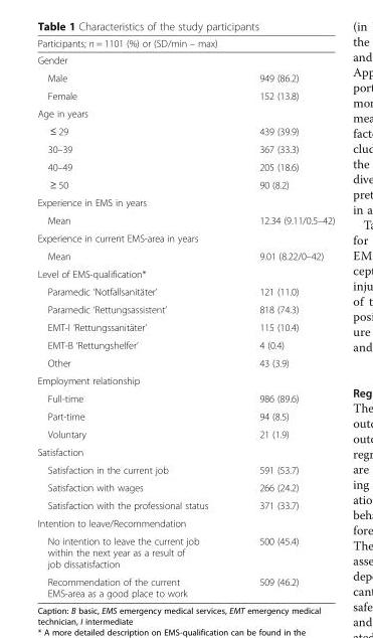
<table><thead><tr><td rowspan="2" colspan="2">Participants; n = 1101 (%) or (SD/min – max) Gender</td></tr><tr></tr><tr><td>Male</td><td>949 (86.2)</td></tr></thead><tbody><tr><td>Female</td><td>152 (13.8)</td></tr><tr><td colspan="2">Age in years</td></tr><tr><td>≤ 29</td><td>439 (39.9)</td></tr><tr><td>30–39</td><td>367 (33.3)</td></tr><tr><td>40–49</td><td>205 (18.6)</td></tr><tr><td>≥ 50</td><td>90 (8.2)</td></tr><tr><td colspan="2">Experience in EMS in years</td></tr><tr><td>Mean</td><td>12.34 (9.11/0.5–42)</td></tr><tr><td colspan="2">Experience in current EMS-area in years</td></tr><tr><td>Mean</td><td>9.01 (8.22/0–42)</td></tr><tr><td colspan="2">Level of EMS-qualification*</td></tr><tr><td>Paramedic ‘Notfallsanitäter’</td><td>121 (11.0)</td></tr><tr><td>Paramedic ‘Rettungsassistent’</td><td>818 (74.3)</td></tr><tr><td>EMT-I ‘Rettungssanitäter’</td><td>115 (10.4)</td></tr><tr><td>EMT-B ‘Rettungshelfer’</td><td>4 (0.4)</td></tr><tr><td>Other</td><td>43 (3.9)</td></tr><tr><td colspan="2">Employment relationship</td></tr><tr><td>Full-time</td><td>986 (89.6)</td></tr><tr><td>Part-time</td><td>94 (8.5)</td></tr><tr><td>Voluntary</td><td>21 (1.9)</td></tr><tr><td colspan="2">Satisfaction</td></tr><tr><td>Satisfaction in the current job</td><td>591 (53.7)</td></tr><tr><td>Satisfaction with wages</td><td>266 (24.2)</td></tr><tr><td>Satisfaction with the professional status</td><td>371 (33.7)</td></tr><tr><td colspan="2">Intention to leave/Recommendation</td></tr><tr><td>No intention to leave the current job within the next year as a result of job dissatisfaction</td><td>500 (45.4)</td></tr><tr><td>Recommendation of the current EMS-area as a good place to work</td><td>509 (46.2)</td></tr></tbody></table>